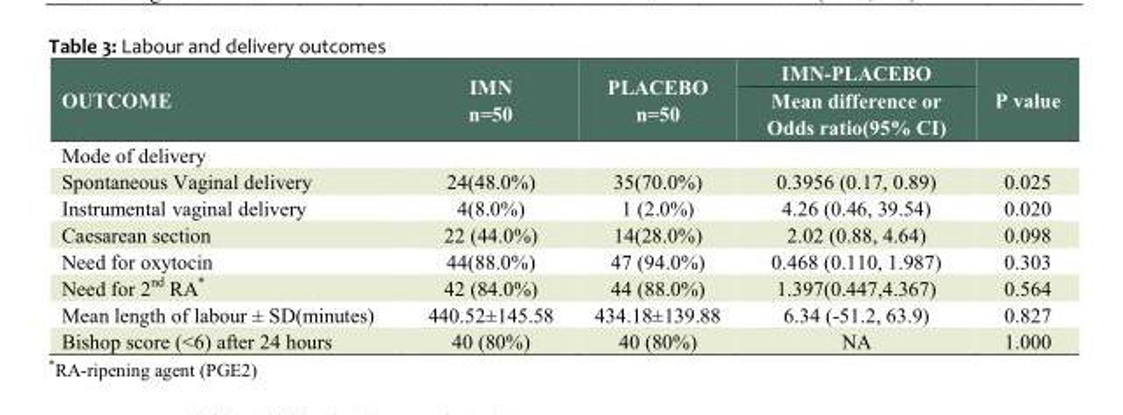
<table><thead><tr><td rowspan="2">OUTCOME</td><td rowspan="2">IMN n=50</td><td rowspan="2">PLACEBO n=50</td><td rowspan="2">IMN-PLACEBO Mean difference or Odds ratio(95% CI)</td><td rowspan="2">P value</td></tr><tr></tr></thead><tbody><tr><td colspan="5">Mode of delivery</td></tr><tr><td>Spontaneous Vaginal delivery</td><td>24(48.0%)</td><td>35(70.0%)</td><td>0.3956 (0.17, 0.89)</td><td>0.025</td></tr><tr><td>Instrumental vaginal delivery</td><td>4(8.0%)</td><td>1 (2.0%)</td><td>4.26 (0.46, 39.54)</td><td>0.020</td></tr><tr><td>Caesarean section</td><td>22 (44.0%)</td><td>14(28.0%)</td><td>2.02 (0.88, 4.64)</td><td>0.098</td></tr><tr><td>Need for oxytocin</td><td>44(88.0%)</td><td>47 (94.0%)</td><td>0.468 (0.110, 1.987)</td><td>0.303</td></tr><tr><td>Need for 2<sup>nd</sup> RA*</td><td>42 (84.0%)</td><td>44 (88.0%)</td><td>1.397(0.447,4.367)</td><td>0.564</td></tr><tr><td>Mean length of labour ± SD(minutes)</td><td>440.52±145.58</td><td>434.18±139.88</td><td>6.34 (-51.2, 63.9)</td><td>0.827</td></tr><tr><td>Bishop score (&lt;6) after 24 hours</td><td>40 (80%)</td><td>40 (80%)</td><td>NA</td><td>1.000</td></tr></tbody></table>